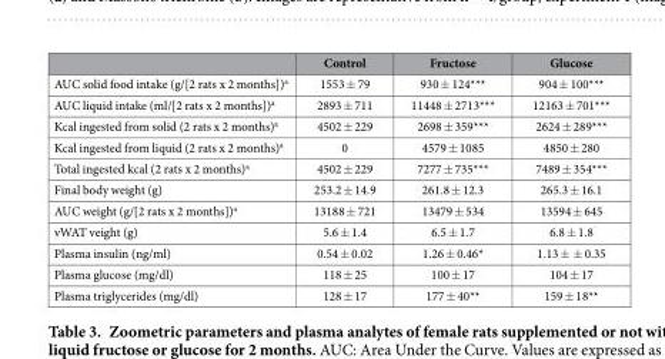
<table><thead><tr><td></td><td>Control</td><td>Fructose</td><td>Glucose</td></tr></thead><tbody><tr><td>AUC solid food intake (g/[2 rats x 2 months])<sup>a</sup></td><td>1553 ± 79</td><td>930 ± 124***</td><td>904 ± 100***</td></tr><tr><td>AUC liquid intake (ml/[2 rats x 2 months])<sup>a</sup></td><td>2893 ± 711</td><td>11448 ± 2713***</td><td>12163 ± 701***</td></tr><tr><td>Kcal ingested from solid (2 rats x 2 months)<sup>a</sup></td><td>4502 ± 229</td><td>2698 ± 359***</td><td>2624 ± 289***</td></tr><tr><td>Kcal ingested from liquid (2 rats x 2 months)<sup>a</sup></td><td>0</td><td>4579 ± 1085</td><td>4850 ± 280</td></tr><tr><td>Total ingested kcal (2 rats x 2 months)<sup>a</sup></td><td>4502 ± 229</td><td>7277 ± 735***</td><td>7489 ± 354***</td></tr><tr><td>Final body weight (g)</td><td>253.2 ± 14.9</td><td>261.8 ± 12.3</td><td>265.3 ± 16.1</td></tr><tr><td>AUC weight (g/[2 rats x 2 months])<sup>a</sup></td><td>13188 ± 721</td><td>13479 ± 534</td><td>13594 ± 645</td></tr><tr><td>vWAT veight (g)</td><td>5.6 ± 1.4</td><td>6.5 ± 1.7</td><td>6.8 ± 1.8</td></tr><tr><td>Plasma insulin (ng/ml)</td><td>0.54 ± 0.02</td><td>1.26 ± 0.46*</td><td>1.13 ± ± 0.35</td></tr><tr><td>Plasma glucose (mg/dl)</td><td>118 ± 25</td><td>100 ± 17</td><td>104 ± 17</td></tr><tr><td>Plasma triglycerides (mg/dl)</td><td>128 ± 17</td><td>177 ± 40**</td><td>159 ± 18**</td></tr></tbody></table>